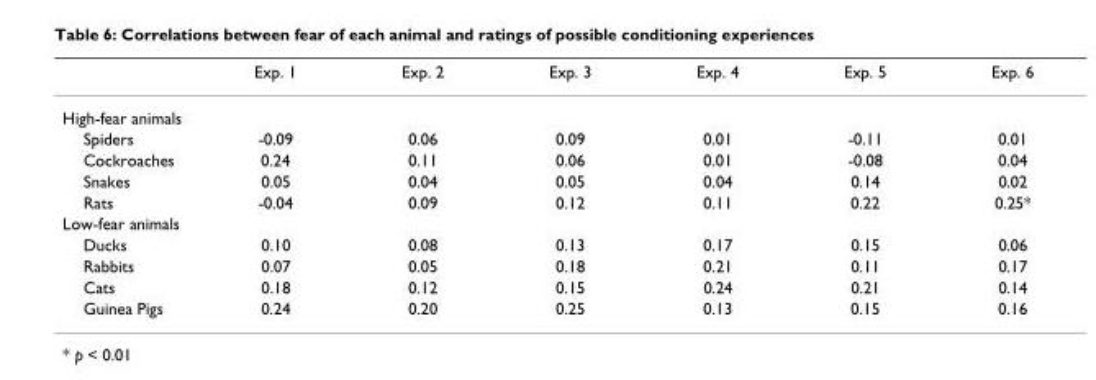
<table><thead><tr><td></td><td>Exp. 1</td><td>Exp. 2</td><td>Exp. 3</td><td>Exp. 4</td><td>Exp. 5</td><td>Exp. 6</td></tr></thead><tbody><tr><td colspan="7">High-fear animals</td></tr><tr><td>Spiders</td><td>-0.09</td><td>0.06</td><td>0.09</td><td>0.01</td><td>-0.11</td><td>0.01</td></tr><tr><td>Cockroaches</td><td>0.24</td><td>0.11</td><td>0.06</td><td>0.01</td><td>-0.08</td><td>0.04</td></tr><tr><td>Snakes</td><td>0.05</td><td>0.04</td><td>0.05</td><td>0.04</td><td>0.14</td><td>0.02</td></tr><tr><td>Rats</td><td>-0.04</td><td>0.09</td><td>0.12</td><td>0.11</td><td>0.22</td><td>0.25*</td></tr><tr><td colspan="7">Low-fear animals</td></tr><tr><td>Ducks</td><td>0.10</td><td>0.08</td><td>0.13</td><td>0.17</td><td>0.15</td><td>0.06</td></tr><tr><td>Rabbits</td><td>0.07</td><td>0.05</td><td>0.18</td><td>0.21</td><td>0.11</td><td>0.17</td></tr><tr><td>Cats</td><td>0.18</td><td>0.12</td><td>0.15</td><td>0.24</td><td>0.21</td><td>0.14</td></tr><tr><td>Guinea Pigs</td><td>0.24</td><td>0.20</td><td>0.25</td><td>0.13</td><td>0.15</td><td>0.16</td></tr></tbody></table>